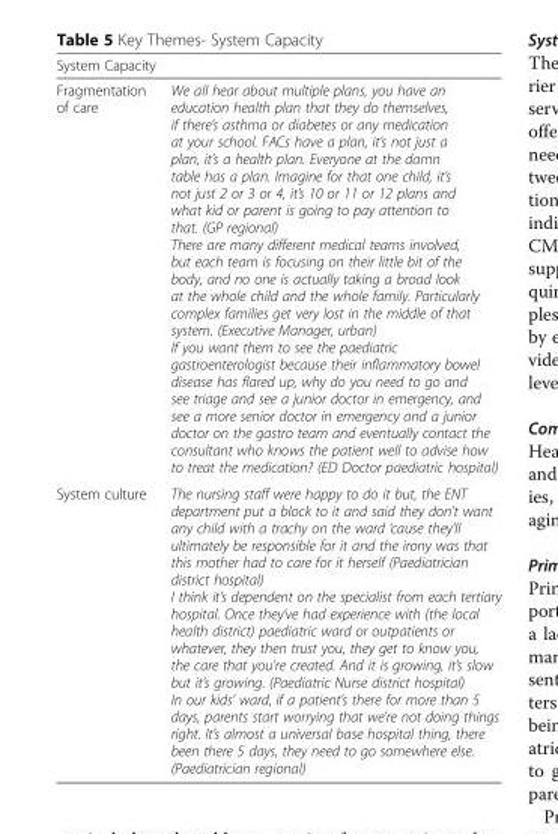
<table><thead><tr><td colspan="2">System Capacity</td></tr><tr><td>Fragmentation of care</td><td>We all hear about multiple plans, you have an education health plan that they do themselves, if there’s asthma or diabetes or any medication at your school. FACs have a plan, it’s not just a plan, it’s a health plan. Everyone at the damn table has a plan. Imagine for that one child, it’s not just 2 or 3 or 4, it’s 10 or 11 or 12 plans and what kid or parent is going to pay attention to that. (GP regional) There are many different medical teams involved, but each team is focusing on their little bit of the body, and no one is actually taking a broad look at the whole child and the whole family. Particularly complex families get very lost in the middle of that system. (Executive Manager, urban) If you want them to see the paediatric gastroenterologist because their inflammatory bowel disease has flared up, why do you need to go and see triage and see a junior doctor in emergency, and see a more senior doctor in emergency and a junior doctor on the gastro team and eventually contact the consultant who knows the patient well to advise how to treat the medication? (ED Doctor paediatric hospital)</td></tr></thead><tbody><tr><td>System culture</td><td>The nursing staff were happy to do it but, the ENT department put a block to it and said they don’t want any child with a trachy on the ward ‘cause they’ll ultimately be responsible for it and the irony was that this mother had to care for it herself (Paediatrician district hospital) I think it’s dependent on the specialist from each tertiary hospital. Once they’ve had experience with (the local health district) paediatric ward or outpatients or whatever, they then trust you, they get to know you, the care that you’re created. And it is growing, it’s slow but it’s growing. (Paediatric Nurse district hospital) In our kids’ ward, if a patient’s there for more than 5 days, parents start worrying that we’re not doing things right. It’s almost a universal base hospital thing, there been there 5 days, they need to go somewhere else. (Paediatrician regional)</td></tr></tbody></table>